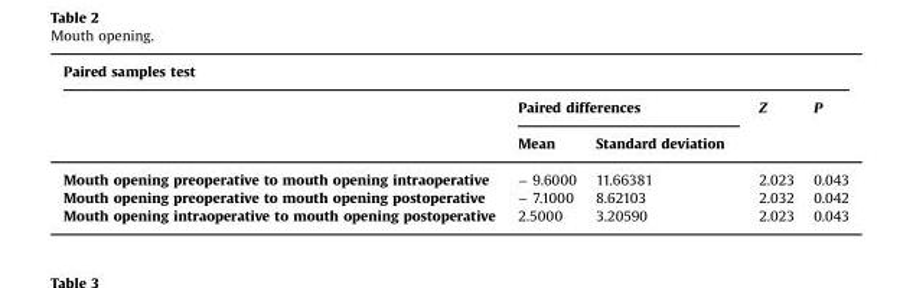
<table><thead><tr><td colspan="5">Paired samples test</td></tr><tr><td rowspan="2"></td><td colspan="2">Paired differences</td><td rowspan="2">Z</td><td rowspan="2">P</td></tr><tr><td>Mean</td><td>Standard deviation</td></tr></thead><tbody><tr><td>Mouth opening preoperative to mouth opening intraoperative</td><td>− 9.6000</td><td>11.66381</td><td>2.023</td><td>0.043</td></tr><tr><td>Mouth opening preoperative to mouth opening postoperative</td><td>− 7.1000</td><td>8.62103</td><td>2.032</td><td>0.042</td></tr><tr><td>Mouth opening intraoperative to mouth opening postoperative</td><td>2.5000</td><td>3.20590</td><td>2.023</td><td>0.043</td></tr></tbody></table>